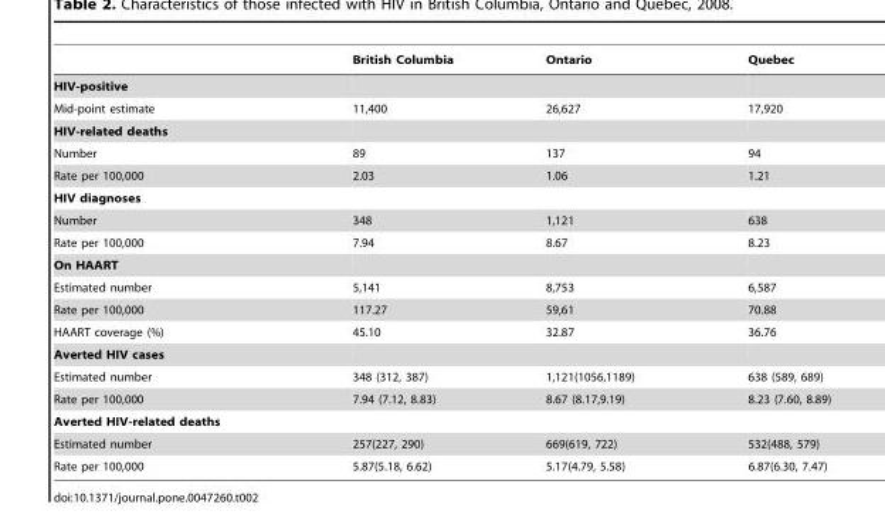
<table><thead><tr><td></td><td>British Columbia</td><td>Ontario</td><td>Quebec</td></tr></thead><tbody><tr><td colspan="4">HIV-positive</td></tr><tr><td>Mid-point estimate</td><td>11,400</td><td>26,627</td><td>17,920</td></tr><tr><td colspan="4">HIV-related deaths</td></tr><tr><td>Number</td><td>89</td><td>137</td><td>94</td></tr><tr><td>Rate per 100,000</td><td>2.03</td><td>1.06</td><td>1.21</td></tr><tr><td colspan="4">HIV diagnoses</td></tr><tr><td>Number</td><td>348</td><td>1,121</td><td>638</td></tr><tr><td>Rate per 100,000</td><td>7.94</td><td>8.67</td><td>8.23</td></tr><tr><td colspan="4">On HAART</td></tr><tr><td>Estimated number</td><td>5,141</td><td>8,753</td><td>6,587</td></tr><tr><td>Rate per 100,000</td><td>117.27</td><td>59,61</td><td>70.88</td></tr><tr><td>HAART coverage (%)</td><td>45.10</td><td>32.87</td><td>36.76</td></tr><tr><td colspan="4">Averted HIV cases</td></tr><tr><td>Estimated number</td><td>348 (312, 387)</td><td>1,121(1056,1189)</td><td>638 (589, 689)</td></tr><tr><td>Rate per 100,000</td><td>7.94 (7.12, 8.83)</td><td>8.67 (8.17,9.19)</td><td>8.23 (7.60, 8.89)</td></tr><tr><td colspan="4">Averted HIV-related deaths</td></tr><tr><td>Estimated number</td><td>257(227, 290)</td><td>669(619, 722)</td><td>532(488, 579)</td></tr><tr><td>Rate per 100,000</td><td>5.87(5.18, 6.62)</td><td>5.17(4.79, 5.58)</td><td>6.87(6.30, 7.47)</td></tr></tbody></table>